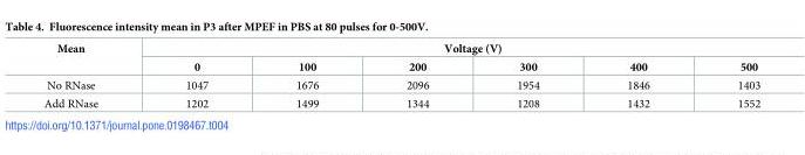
<table><thead><tr><td rowspan="2">Mean</td><td colspan="6">Voltage (V)</td></tr><tr><td>0</td><td>100</td><td>200</td><td>300</td><td>400</td><td>500</td></tr></thead><tbody><tr><td>No RNase</td><td>1047</td><td>1676</td><td>2096</td><td>1954</td><td>1846</td><td>1403</td></tr><tr><td>Add RNase</td><td>1202</td><td>1499</td><td>1344</td><td>1208</td><td>1432</td><td>1552</td></tr></tbody></table>